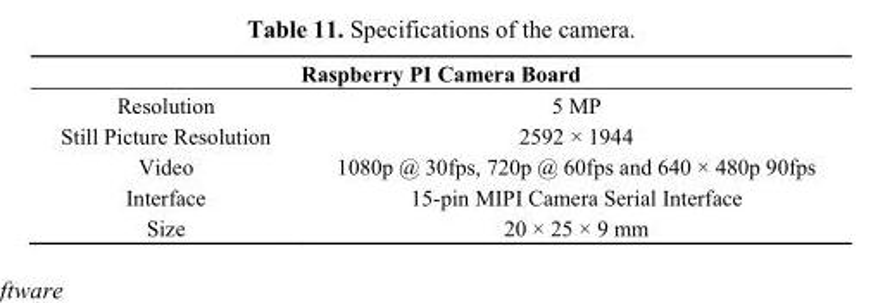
<table><thead><tr><td colspan="2">Raspberry PI Camera Board</td></tr><tr><td>Resolution</td><td>5 MP</td></tr></thead><tbody><tr><td>Still Picture Resolution</td><td>2592 × 1944</td></tr><tr><td>Video</td><td>1080p @ 30fps, 720p @ 60fps and 640 × 480p 90fps</td></tr><tr><td>Interface</td><td>15-pin MIPI Camera Serial Interface</td></tr><tr><td>Size</td><td>20 × 25 × 9 mm</td></tr></tbody></table>